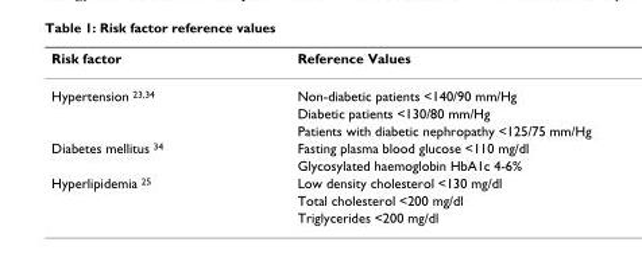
<table><thead><tr><td>Risk factor</td><td>Reference Values</td></tr></thead><tbody><tr><td rowspan="3">Hypertension <sup>23,34</sup></td><td>Non-diabetic patients &lt;140/90 mm/Hg</td></tr><tr><td>Diabetic patients &lt;130/80 mm/Hg</td></tr><tr><td>Patients with diabetic nephropathy &lt;125/75 mm/Hg</td></tr><tr><td rowspan="2">Diabetes mellitus <sup>34</sup></td><td>Fasting plasma blood glucose &lt;110 mg/dl</td></tr><tr><td>Glycosylated haemoglobin HbA1c 4-6%</td></tr><tr><td rowspan="3">Hyperlipidemia <sup>25</sup></td><td>Low density cholesterol &lt;130 mg/dl</td></tr><tr><td>Total cholesterol &lt;200 mg/dl</td></tr><tr><td>Triglycerides &lt;200 mg/dl</td></tr></tbody></table>